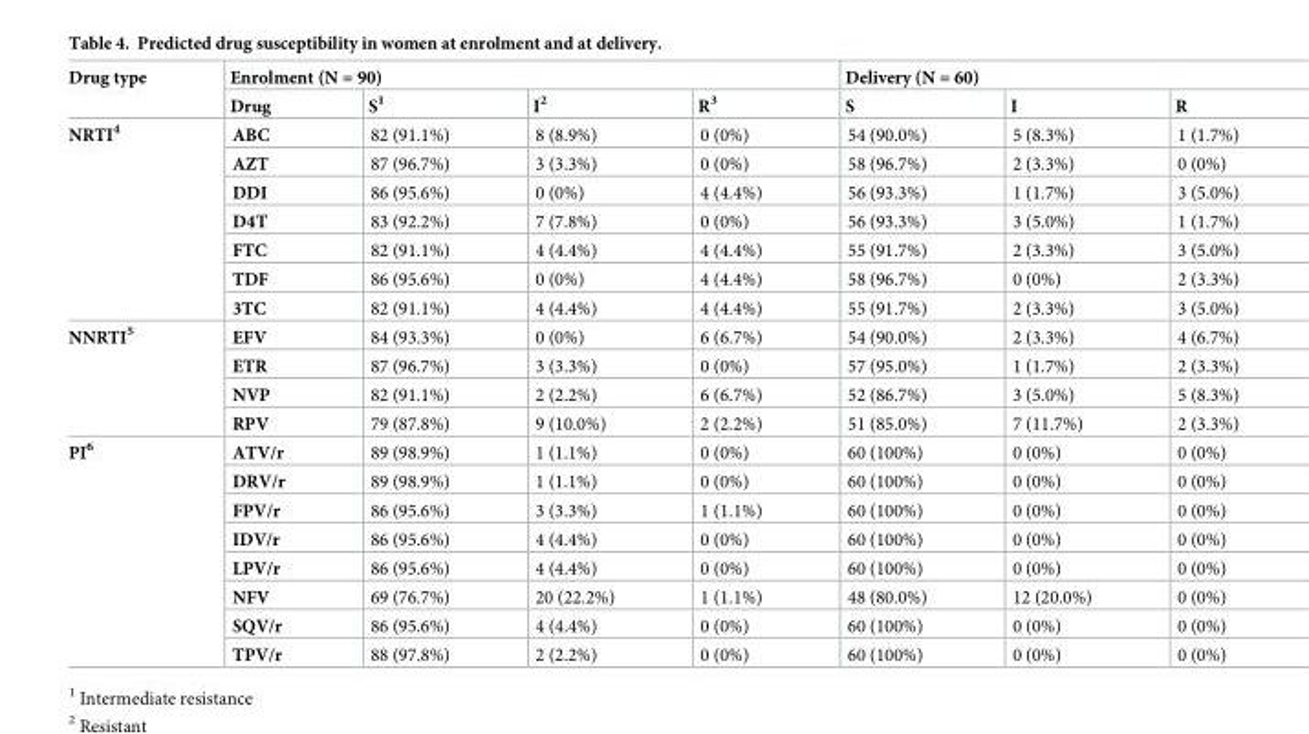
<table><thead><tr><td rowspan="2">Drug type</td><td colspan="4">Enrolment (N = 90)</td><td colspan="3">Delivery (N = 60)</td></tr><tr><td>Drug</td><td>S<sup>1</sup></td><td>I<sup>2</sup></td><td>R<sup>3</sup></td><td>S</td><td>I</td><td>R</td></tr></thead><tbody><tr><td rowspan="7">NRTI<sup>4</sup></td><td>ABC</td><td>82 (91.1%)</td><td>8 (8.9%)</td><td>0 (0%)</td><td>54 (90.0%)</td><td>5 (8.3%)</td><td>1 (1.7%)</td></tr><tr><td>AZT</td><td>87 (96.7%)</td><td>3 (3.3%)</td><td>0 (0%)</td><td>58 (96.7%)</td><td>2 (3.3%)</td><td>0 (0%)</td></tr><tr><td>DDI</td><td>86 (95.6%)</td><td>0 (0%)</td><td>4 (4.4%)</td><td>56 (93.3%)</td><td>1 (1.7%)</td><td>3 (5.0%)</td></tr><tr><td>D4T</td><td>83 (92.2%)</td><td>7 (7.8%)</td><td>0 (0%)</td><td>56 (93.3%)</td><td>3 (5.0%)</td><td>1 (1.7%)</td></tr><tr><td>FTC</td><td>82 (91.1%)</td><td>4 (4.4%)</td><td>4 (4.4%)</td><td>55 (91.7%)</td><td>2 (3.3%)</td><td>3 (5.0%)</td></tr><tr><td>TDF</td><td>86 (95.6%)</td><td>0 (0%)</td><td>4 (4.4%)</td><td>58 (96.7%)</td><td>0 (0%)</td><td>2 (3.3%)</td></tr><tr><td>3TC</td><td>82 (91.1%)</td><td>4 (4.4%)</td><td>4 (4.4%)</td><td>55 (91.7%)</td><td>2 (3.3%)</td><td>3 (5.0%)</td></tr><tr><td rowspan="4">NNRTI<sup>5</sup></td><td>EFV</td><td>84 (93.3%)</td><td>0 (0%)</td><td>6 (6.7%)</td><td>54 (90.0%)</td><td>2 (3.3%)</td><td>4 (6.7%)</td></tr><tr><td>ETR</td><td>87 (96.7%)</td><td>3 (3.3%)</td><td>0 (0%)</td><td>57 (95.0%)</td><td>1 (1.7%)</td><td>2 (3.3%)</td></tr><tr><td>NVP</td><td>82 (91.1%)</td><td>2 (2.2%)</td><td>6 (6.7%)</td><td>52 (86.7%)</td><td>3 (5.0%)</td><td>5 (8.3%)</td></tr><tr><td>RPV</td><td>79 (87.8%)</td><td>9 (10.0%)</td><td>2 (2.2%)</td><td>51 (85.0%)</td><td>7 (11.7%)</td><td>2 (3.3%)</td></tr><tr><td rowspan="8">PI<sup>6</sup></td><td>ATV/r</td><td>89 (98.9%)</td><td>1 (1.1%)</td><td>0 (0%)</td><td>60 (100%)</td><td>0 (0%)</td><td>0 (0%)</td></tr><tr><td>DRV/r</td><td>89 (98.9%)</td><td>1 (1.1%)</td><td>0 (0%)</td><td>60 (100%)</td><td>0 (0%)</td><td>0 (0%)</td></tr><tr><td>FPV/r</td><td>86 (95.6%)</td><td>3 (3.3%)</td><td>1 (1.1%)</td><td>60 (100%)</td><td>0 (0%)</td><td>0 (0%)</td></tr><tr><td>IDV/r</td><td>86 (95.6%)</td><td>4 (4.4%)</td><td>0 (0%)</td><td>60 (100%)</td><td>0 (0%)</td><td>0 (0%)</td></tr><tr><td>LPV/r</td><td>86 (95.6%)</td><td>4 (4.4%)</td><td>0 (0%)</td><td>60 (100%)</td><td>0 (0%)</td><td>0 (0%)</td></tr><tr><td>NFV</td><td>69 (76.7%)</td><td>20 (22.2%)</td><td>1 (1.1%)</td><td>48 (80.0%)</td><td>12 (20.0%)</td><td>0 (0%)</td></tr><tr><td>SQV/r</td><td>86 (95.6%)</td><td>4 (4.4%)</td><td>0 (0%)</td><td>60 (100%)</td><td>0 (0%)</td><td>0 (0%)</td></tr><tr><td>TPV/r</td><td>88 (97.8%)</td><td>2 (2.2%)</td><td>0 (0%)</td><td>60 (100%)</td><td>0 (0%)</td><td>0 (0%)</td></tr></tbody></table>